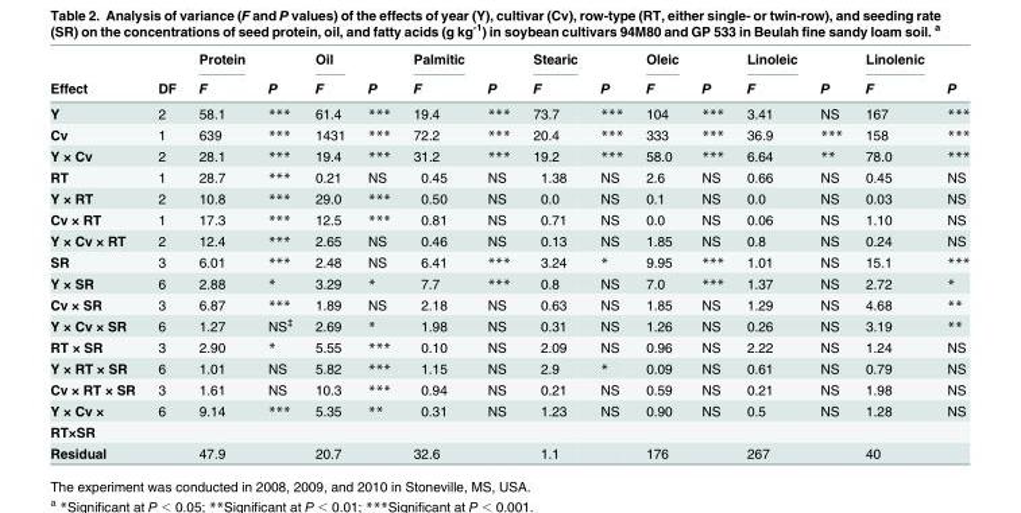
<table><thead><tr><td rowspan="2">Effect</td><td rowspan="2">DF</td><td rowspan="2">Protein F</td><td rowspan="2">P</td><td rowspan="2">Oil F</td><td rowspan="2">P</td><td rowspan="2">Palmitic F</td><td rowspan="2">P</td><td rowspan="2">Stearic F</td><td rowspan="2">P</td><td rowspan="2">Oleic F</td><td rowspan="2">P</td><td rowspan="2">Linoleic F</td><td rowspan="2">P</td><td rowspan="2">Linolenic F</td><td rowspan="2">P</td></tr><tr></tr></thead><tbody><tr><td>Y</td><td>2</td><td>58.1</td><td>***</td><td>61.4</td><td>***</td><td>19.4</td><td>***</td><td>73.7</td><td>***</td><td>104</td><td>***</td><td>3.41</td><td>NS</td><td>167</td><td>***</td></tr><tr><td>Cv</td><td>1</td><td>639</td><td>***</td><td>1431</td><td>***</td><td>72.2</td><td>***</td><td>20.4</td><td>***</td><td>333</td><td>***</td><td>36.9</td><td>***</td><td>158</td><td>***</td></tr><tr><td>Y × Cv</td><td>2</td><td>28.1</td><td>***</td><td>19.4</td><td>***</td><td>31.2</td><td>***</td><td>19.2</td><td>***</td><td>58.0</td><td>***</td><td>6.64</td><td>**</td><td>78.0</td><td>***</td></tr><tr><td>RT</td><td>1</td><td>28.7</td><td>***</td><td>0.21</td><td>NS</td><td>0.45</td><td>NS</td><td>1.38</td><td>NS</td><td>2.6</td><td>NS</td><td>0.66</td><td>NS</td><td>0.45</td><td>NS</td></tr><tr><td>Y × RT</td><td>2</td><td>10.8</td><td>***</td><td>29.0</td><td>***</td><td>0.50</td><td>NS</td><td>0.0</td><td>NS</td><td>0.1</td><td>NS</td><td>0.0</td><td>NS</td><td>0.03</td><td>NS</td></tr><tr><td>Cv × RT</td><td>1</td><td>17.3</td><td>***</td><td>12.5</td><td>***</td><td>0.81</td><td>NS</td><td>0.71</td><td>NS</td><td>0.0</td><td>NS</td><td>0.06</td><td>NS</td><td>1.10</td><td>NS</td></tr><tr><td>Y × Cv × RT</td><td>2</td><td>12.4</td><td>***</td><td>2.65</td><td>NS</td><td>0.46</td><td>NS</td><td>0.13</td><td>NS</td><td>1.85</td><td>NS</td><td>0.8</td><td>NS</td><td>0.24</td><td>NS</td></tr><tr><td>SR</td><td>3</td><td>6.01</td><td>***</td><td>2.48</td><td>NS</td><td>6.41</td><td>***</td><td>3.24</td><td>*</td><td>9.95</td><td>***</td><td>1.01</td><td>NS</td><td>15.1</td><td>***</td></tr><tr><td>Y × SR</td><td>6</td><td>2.88</td><td>*</td><td>3.29</td><td>*</td><td>7.7</td><td>***</td><td>0.8</td><td>NS</td><td>7.0</td><td>***</td><td>1.37</td><td>NS</td><td>2.72</td><td>*</td></tr><tr><td>Cv × SR</td><td>3</td><td>6.87</td><td>***</td><td>1.89</td><td>NS</td><td>2.18</td><td>NS</td><td>0.63</td><td>NS</td><td>1.85</td><td>NS</td><td>1.29</td><td>NS</td><td>4.68</td><td>**</td></tr><tr><td>Y × Cv × SR</td><td>6</td><td>1.27</td><td>NS<sup>‡</sup></td><td>2.69</td><td>*</td><td>1.98</td><td>NS</td><td>0.31</td><td>NS</td><td>1.26</td><td>NS</td><td>0.26</td><td>NS</td><td>3.19</td><td>**</td></tr><tr><td>RT × SR</td><td>3</td><td>2.90</td><td>*</td><td>5.55</td><td>***</td><td>0.10</td><td>NS</td><td>2.09</td><td>NS</td><td>0.96</td><td>NS</td><td>2.22</td><td>NS</td><td>1.24</td><td>NS</td></tr><tr><td>Y × RT × SR</td><td>6</td><td>1.01</td><td>NS</td><td>5.82</td><td>***</td><td>1.15</td><td>NS</td><td>2.9</td><td>*</td><td>0.09</td><td>NS</td><td>0.61</td><td>NS</td><td>0.79</td><td>NS</td></tr><tr><td>Cv × RT × SR</td><td>3</td><td>1.61</td><td>NS</td><td>10.3</td><td>***</td><td>0.94</td><td>NS</td><td>0.21</td><td>NS</td><td>0.59</td><td>NS</td><td>0.21</td><td>NS</td><td>1.98</td><td>NS</td></tr><tr><td>Y × Cv ×</td><td>6</td><td>9.14</td><td>***</td><td>5.35</td><td>**</td><td>0.31</td><td>NS</td><td>1.23</td><td>NS</td><td>0.90</td><td>NS</td><td>0.5</td><td>NS</td><td>1.28</td><td>NS</td></tr><tr><td colspan="16">RT×SR</td></tr><tr><td>Residual</td><td></td><td>47.9</td><td></td><td>20.7</td><td></td><td>32.6</td><td></td><td>1.1</td><td></td><td>176</td><td></td><td>267</td><td></td><td>40</td><td></td></tr></tbody></table>